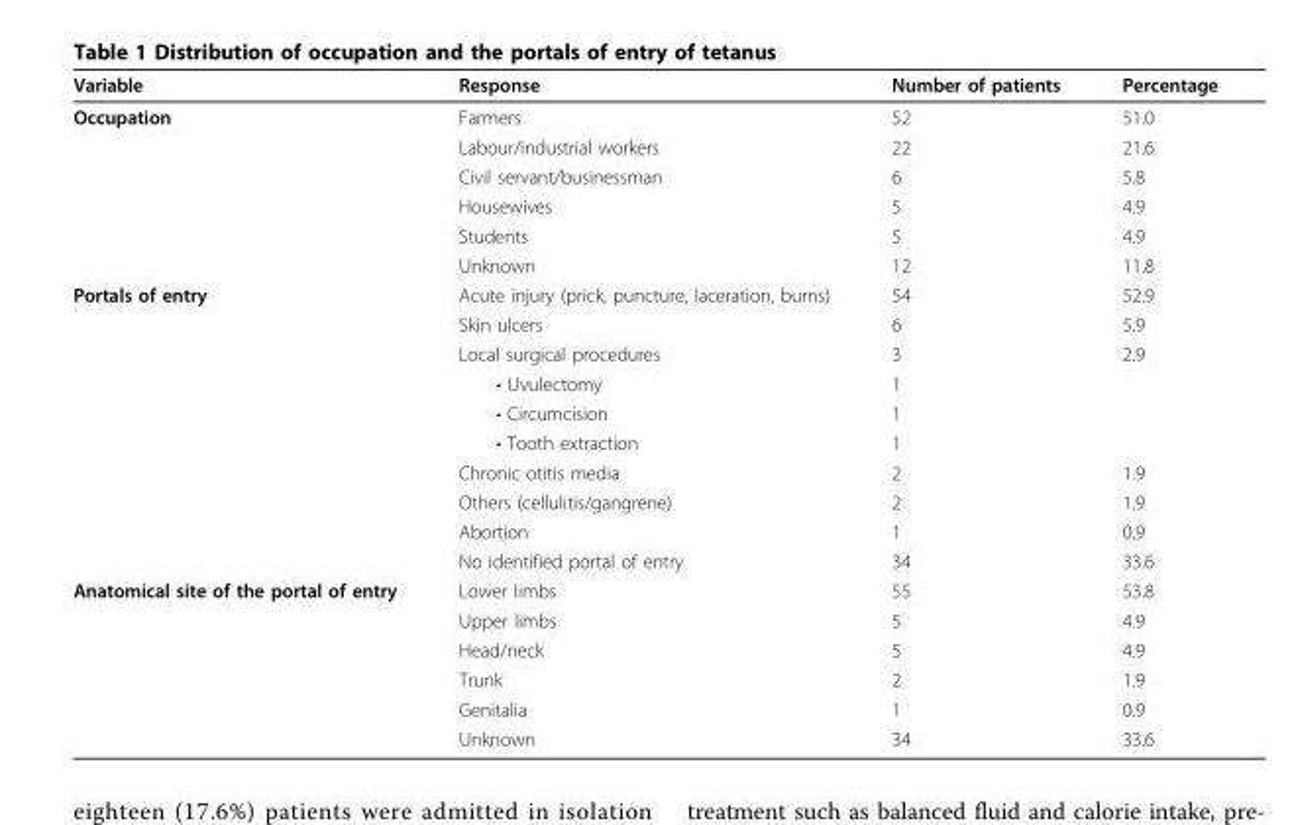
<table><thead><tr><td>Variable</td><td>Response</td><td>Number of patients</td><td>Percentage</td></tr></thead><tbody><tr><td rowspan="6">Occupation</td><td>Farmers</td><td>52</td><td>51.0</td></tr><tr><td>Labour/industrial workers</td><td>22</td><td>21.6</td></tr><tr><td>Civil servant/businessman</td><td>6</td><td>5.8</td></tr><tr><td>Housewives</td><td>5</td><td>4.9</td></tr><tr><td>Students</td><td>5</td><td>4.9</td></tr><tr><td>Unknown</td><td>12</td><td>11.8</td></tr><tr><td rowspan="10">Portals of entry</td><td>Acute injury (prick, puncture, laceration, burns)</td><td>54</td><td>52.9</td></tr><tr><td>Skin ulcers</td><td>6</td><td>5.9</td></tr><tr><td>Local surgical procedures</td><td>3</td><td>2.9</td></tr><tr><td>• Uvulectomy</td><td>1</td><td></td></tr><tr><td>• Circumcision</td><td>1</td><td></td></tr><tr><td>• Tooth extraction</td><td>1</td><td></td></tr><tr><td>Chronic otitis media</td><td>2</td><td>1.9</td></tr><tr><td>Others (cellulitis/gangrene)</td><td>2</td><td>1.9</td></tr><tr><td>Abortion</td><td>1</td><td>0.9</td></tr><tr><td>No identified portal of entry</td><td>34</td><td>33.6</td></tr><tr><td rowspan="6">Anatomical site of the portal of entry</td><td>Lower limbs</td><td>55</td><td>53.8</td></tr><tr><td>Upper limbs</td><td>5</td><td>4.9</td></tr><tr><td>Head/neck</td><td>5</td><td>4.9</td></tr><tr><td>Trunk</td><td>2</td><td>1.9</td></tr><tr><td>Genitalia</td><td>1</td><td>0.9</td></tr><tr><td>Unknown</td><td>34</td><td>33.6</td></tr></tbody></table>